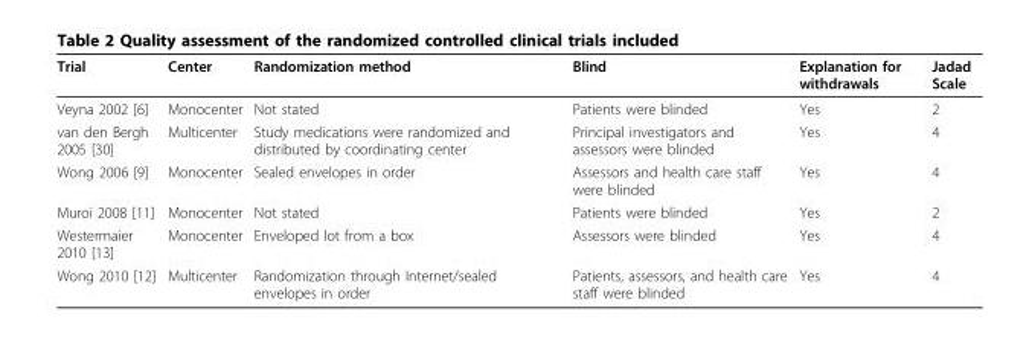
<table><thead><tr><td>Trial</td><td>Center</td><td>Randomization method</td><td>Blind</td><td>Explanation for withdrawals</td><td>Jadad Scale</td></tr></thead><tbody><tr><td>Veyna 2002 [6]</td><td>Monocenter</td><td>Not stated</td><td>Patients were blinded</td><td>Yes</td><td>2</td></tr><tr><td>van den Bergh 2005 [30]</td><td>Multicenter</td><td>Study medications were randomized and distributed by coordinating center</td><td>Principal investigators and assessors were blinded</td><td>Yes</td><td>4</td></tr><tr><td>Wong 2006 [9]</td><td>Monocenter</td><td>Sealed envelopes in order</td><td>Assessors and health care staff were blinded</td><td>Yes</td><td>4</td></tr><tr><td>Muroi 2008 [11]</td><td>Monocenter</td><td>Not stated</td><td>Patients were blinded</td><td>Yes</td><td>2</td></tr><tr><td>Westermaier 2010 [13]</td><td>Monocenter</td><td>Enveloped lot from a box</td><td>Assessors were blinded</td><td>Yes</td><td>4</td></tr><tr><td>Wong 2010 [12]</td><td>Multicenter</td><td>Randomization through Internet/sealed envelopes in order</td><td>Patients, assessors, and health care staff were blinded</td><td>Yes</td><td>4</td></tr></tbody></table>